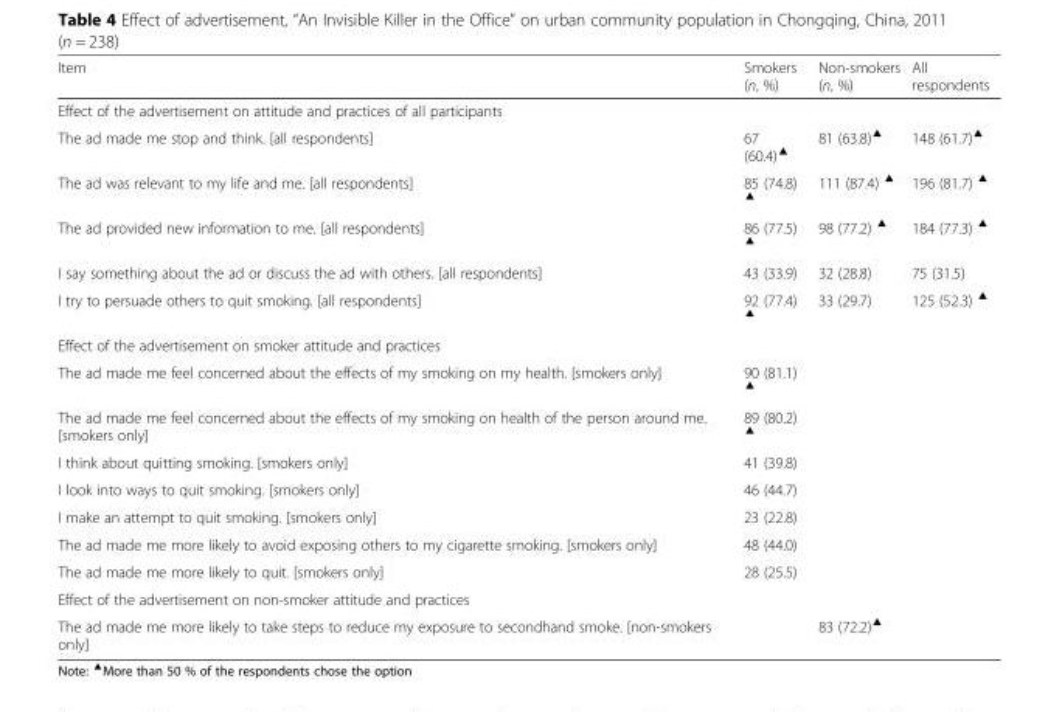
<table><thead><tr><td>Item</td><td>Smokers (n, %)</td><td>Non-smokers (n, %)</td><td>All respondents</td></tr></thead><tbody><tr><td colspan="4">Effect of the advertisement on attitude and practices of all participants</td></tr><tr><td>The ad made me stop and think. [all respondents]</td><td>67 (60.4)<sup>▲</sup></td><td>81 (63.8)<sup>▲</sup></td><td>148 (61.7)<sup>▲</sup></td></tr><tr><td>The ad was relevant to my life and me. [all respondents]</td><td>85 (74.8) <sup>▲</sup></td><td>111 (87.4) <sup>▲</sup></td><td>196 (81.7) <sup>▲</sup></td></tr><tr><td>The ad provided new information to me. [all respondents]</td><td>86 (77.5) <sup>▲</sup></td><td>98 (77.2) <sup>▲</sup></td><td>184 (77.3) <sup>▲</sup></td></tr><tr><td>I say something about the ad or discuss the ad with others. [all respondents]</td><td>43 (33.9)</td><td>32 (28.8)</td><td>75 (31.5)</td></tr><tr><td>I try to persuade others to quit smoking. [all respondents]</td><td>92 (77.4) <sup>▲</sup></td><td>33 (29.7)</td><td>125 (52.3) <sup>▲</sup></td></tr><tr><td colspan="4">Effect of the advertisement on smoker attitude and practices</td></tr><tr><td>The ad made me feel concerned about the effects of my smoking on my health. [smokers only]</td><td>90 (81.1) <sup>▲</sup></td><td></td><td></td></tr><tr><td>The ad made me feel concerned about the effects of my smoking on health of the person around me. [smokers only]</td><td>89 (80.2) <sup>▲</sup></td><td></td><td></td></tr><tr><td>I think about quitting smoking. [smokers only]</td><td>41 (39.8)</td><td></td><td></td></tr><tr><td>I look into ways to quit smoking. [smokers only]</td><td>46 (44.7)</td><td></td><td></td></tr><tr><td>I make an attempt to quit smoking. [smokers only]</td><td>23 (22.8)</td><td></td><td></td></tr><tr><td>The ad made me more likely to avoid exposing others to my cigarette smoking. [smokers only]</td><td>48 (44.0)</td><td></td><td></td></tr><tr><td>The ad made me more likely to quit. [smokers only]</td><td>28 (25.5)</td><td></td><td></td></tr><tr><td colspan="4">Effect of the advertisement on non-smoker attitude and practices</td></tr><tr><td>The ad made me more likely to take steps to reduce my exposure to secondhand smoke. [non-smokers only]</td><td></td><td>83 (72.2)<sup>▲</sup></td><td></td></tr></tbody></table>